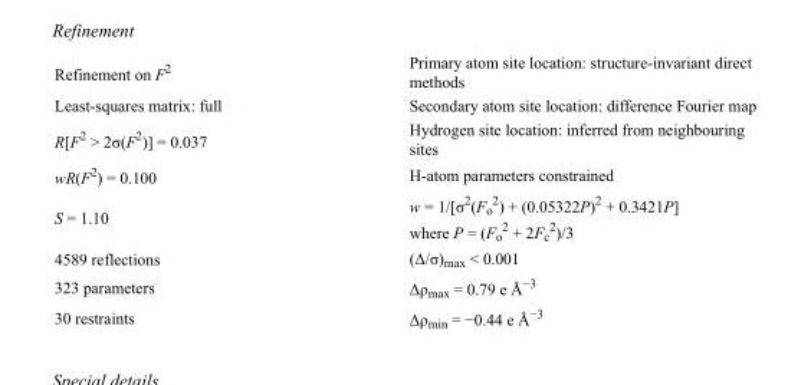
<table><tbody><tr><td>Refinement on F<sup>2</sup></td><td>Primary atom site location: structure-invariant direct methods</td></tr><tr><td>Least-squares matrix: full</td><td>Secondary atom site location: difference Fourier map</td></tr><tr><td>R[F<sup>2</sup> &gt; 2σ(F<sup>2</sup>)] = 0.037</td><td>Hydrogen site location: inferred from neighbouring sites</td></tr><tr><td>wR(F<sup>2</sup>) = 0.100</td><td>H-atom parameters constrained</td></tr><tr><td>S = 1.10</td><td>w = 1/[σ<sup>2</sup>(F<sub>o</sub> <sup>2</sup>) + (0.05322P)<sup>2</sup> + 0.3421P] where P = (F<sub>o</sub> <sup>2</sup> + 2F<sub>c</sub> <sup>2</sup>)/3</td></tr><tr><td>4589 reflections</td><td>(Δ/σ)<sub>max</sub> &lt; 0.001</td></tr><tr><td>323 parameters</td><td>Δρ<sub>max</sub> = 0.79 e Å<sup>−3</sup></td></tr><tr><td>30 restraints</td><td>Δρ<sub>min</sub> = −0.44 e Å<sup>−3</sup></td></tr></tbody></table>